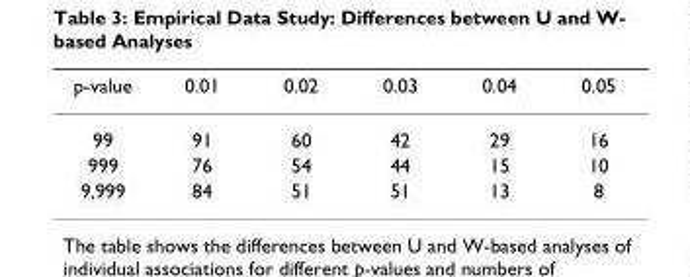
<table><thead><tr><td>p-value</td><td>0.01</td><td>0.02</td><td>0.03</td><td>0.04</td><td>0.05</td></tr></thead><tbody><tr><td>99</td><td>91</td><td>60</td><td>42</td><td>29</td><td>16</td></tr><tr><td>999</td><td>76</td><td>54</td><td>44</td><td>15</td><td>10</td></tr><tr><td>9,999</td><td>84</td><td>51</td><td>51</td><td>13</td><td>8</td></tr></tbody></table>